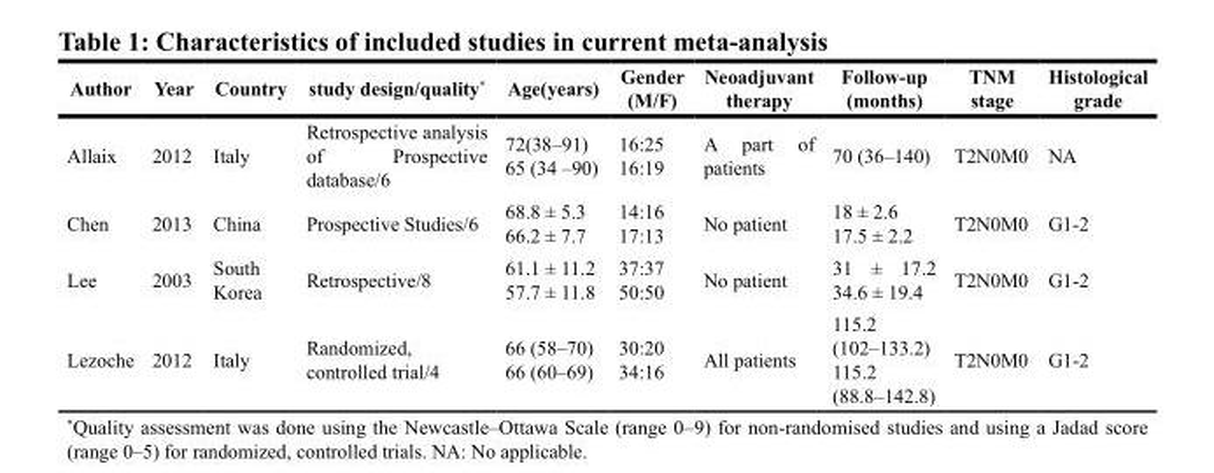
<table><thead><tr><td>Author</td><td>Year</td><td>Country</td><td>study design/quality*</td><td>Age(years)</td><td>Gender (M/F)</td><td>Neoadjuvant therapy</td><td>Follow-up (months)</td><td>TNM stage</td><td>Histological grade</td></tr></thead><tbody><tr><td>Allaix</td><td>2012</td><td>Italy</td><td>Retrospective analysis of Prospective database/6</td><td>72(38–91) 65 (34 –90)</td><td>16:25 16:19</td><td>A part of patients</td><td>70 (36–140)</td><td>T2N0M0</td><td>NA</td></tr><tr><td>Chen</td><td>2013</td><td>China</td><td>Prospective Studies/6</td><td>68.8 ± 5.3 66.2 ± 7.7</td><td>14:16 17:13</td><td>No patient</td><td>18 ± 2.6 17.5 ± 2.2</td><td>T2N0M0</td><td>G1-2</td></tr><tr><td>Lee</td><td>2003</td><td>South Korea</td><td>Retrospective/8</td><td>61.1 ± 11.2 57.7 ± 11.8</td><td>37:37 50:50</td><td>No patient</td><td>31 ± 17.2 34.6 ± 19.4</td><td>T2N0M0</td><td>G1-2</td></tr><tr><td>Lezoche</td><td>2012</td><td>Italy</td><td>Randomized, controlled trial/4</td><td>66 (58–70) 66 (60–69)</td><td>30:20 34:16</td><td>All patients</td><td>115.2 (102–133.2) 115.2 (88.8–142.8)</td><td>T2N0M0</td><td>G1-2</td></tr></tbody></table>